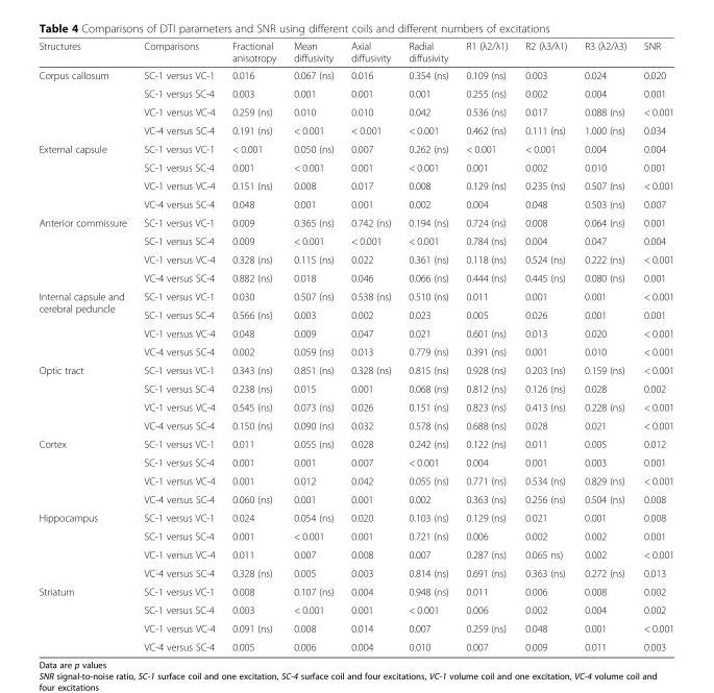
<table><thead><tr><td>Structures</td><td>Comparisons</td><td>Fractional anisotropy</td><td>Mean diffusivity</td><td>Axial diffusivity</td><td>Radial diffusivity</td><td>R1 (λ2/λ1)</td><td>R2 (λ3/λ1)</td><td>R3 (λ2/λ3)</td><td>SNR</td></tr></thead><tbody><tr><td rowspan="4">Corpus callosum</td><td>SC-1 versus VC-1</td><td>0.016</td><td>0.067 (ns)</td><td>0.016</td><td>0.354 (ns)</td><td>0.109 (ns)</td><td>0.003</td><td>0.024</td><td>0.020</td></tr><tr><td>SC-1 versus SC-4</td><td>0.003</td><td>0.001</td><td>0.001</td><td>0.001</td><td>0.255 (ns)</td><td>0.002</td><td>0.004</td><td>0.001</td></tr><tr><td>VC-1 versus VC-4</td><td>0.259 (ns)</td><td>0.010</td><td>0.010</td><td>0.042</td><td>0.536 (ns)</td><td>0.017</td><td>0.088 (ns)</td><td>&lt; 0.001</td></tr><tr><td>VC-4 versus SC-4</td><td>0.191 (ns)</td><td>&lt; 0.001</td><td>&lt; 0.001</td><td>&lt; 0.001</td><td>0.462 (ns)</td><td>0.111 (ns)</td><td>1.000 (ns)</td><td>0.034</td></tr><tr><td rowspan="4">External capsule</td><td>SC-1 versus VC-1</td><td>&lt; 0.001</td><td>0.050 (ns)</td><td>0.007</td><td>0.262 (ns)</td><td>&lt; 0.001</td><td>&lt; 0.001</td><td>0.004</td><td>0.004</td></tr><tr><td>SC-1 versus SC-4</td><td>0.001</td><td>&lt; 0.001</td><td>0.001</td><td>&lt; 0.001</td><td>0.001</td><td>0.002</td><td>0.010</td><td>0.001</td></tr><tr><td>VC-1 versus VC-4</td><td>0.151 (ns)</td><td>0.008</td><td>0.017</td><td>0.008</td><td>0.129 (ns)</td><td>0.235 (ns)</td><td>0.507 (ns)</td><td>&lt; 0.001</td></tr><tr><td>VC-4 versus SC-4</td><td>0.048</td><td>0.001</td><td>0.001</td><td>0.002</td><td>0.004</td><td>0.048</td><td>0.503 (ns)</td><td>0.007</td></tr><tr><td rowspan="4">Anterior commissure</td><td>SC-1 versus VC-1</td><td>0.009</td><td>0.365 (ns)</td><td>0.742 (ns)</td><td>0.194 (ns)</td><td>0.724 (ns)</td><td>0.008</td><td>0.064 (ns)</td><td>0.001</td></tr><tr><td>SC-1 versus SC-4</td><td>0.009</td><td>&lt; 0.001</td><td>&lt; 0.001</td><td>&lt; 0.001</td><td>0.784 (ns)</td><td>0.004</td><td>0.047</td><td>0.004</td></tr><tr><td>VC-1 versus VC-4</td><td>0.328 (ns)</td><td>0.115 (ns)</td><td>0.022</td><td>0.361 (ns)</td><td>0.118 (ns)</td><td>0.524 (ns)</td><td>0.222 (ns)</td><td>&lt; 0.001</td></tr><tr><td>VC-4 versus SC-4</td><td>0.882 (ns)</td><td>0.018</td><td>0.046</td><td>0.066 (ns)</td><td>0.444 (ns)</td><td>0.445 (ns)</td><td>0.080 (ns)</td><td>0.001</td></tr><tr><td rowspan="4">Internal capsule and cerebral peduncle</td><td>SC-1 versus VC-1</td><td>0.030</td><td>0.507 (ns)</td><td>0.538 (ns)</td><td>0.510 (ns)</td><td>0.011</td><td>0.001</td><td>0.001</td><td>&lt; 0.001</td></tr><tr><td>SC-1 versus SC-4</td><td>0.566 (ns)</td><td>0.003</td><td>0.002</td><td>0.023</td><td>0.005</td><td>0.026</td><td>0.001</td><td>0.001</td></tr><tr><td>VC-1 versus VC-4</td><td>0.048</td><td>0.009</td><td>0.047</td><td>0.021</td><td>0.601 (ns)</td><td>0.013</td><td>0.020</td><td>&lt; 0.001</td></tr><tr><td>VC-4 versus SC-4</td><td>0.002</td><td>0.059 (ns)</td><td>0.013</td><td>0.779 (ns)</td><td>0.391 (ns)</td><td>0.001</td><td>0.010</td><td>&lt; 0.001</td></tr><tr><td rowspan="4">Optic tract</td><td>SC-1 versus VC-1</td><td>0.343 (ns)</td><td>0.851 (ns)</td><td>0.328 (ns)</td><td>0.815 (ns)</td><td>0.928 (ns)</td><td>0.203 (ns)</td><td>0.159 (ns)</td><td>&lt; 0.001</td></tr><tr><td>SC-1 versus SC-4</td><td>0.238 (ns)</td><td>0.015</td><td>0.001</td><td>0.068 (ns)</td><td>0.812 (ns)</td><td>0.126 (ns)</td><td>0.028</td><td>0.002</td></tr><tr><td>VC-1 versus VC-4</td><td>0.545 (ns)</td><td>0.073 (ns)</td><td>0.026</td><td>0.151 (ns)</td><td>0.823 (ns)</td><td>0.413 (ns)</td><td>0.228 (ns)</td><td>&lt; 0.001</td></tr><tr><td>VC-4 versus SC-4</td><td>0.150 (ns)</td><td>0.090 (ns)</td><td>0.032</td><td>0.578 (ns)</td><td>0.688 (ns)</td><td>0.028</td><td>0.021</td><td>&lt; 0.001</td></tr><tr><td rowspan="4">Cortex</td><td>SC-1 versus VC-1</td><td>0.011</td><td>0.055 (ns)</td><td>0.028</td><td>0.242 (ns)</td><td>0.122 (ns)</td><td>0.011</td><td>0.005</td><td>0.012</td></tr><tr><td>SC-1 versus SC-4</td><td>0.001</td><td>0.001</td><td>0.007</td><td>&lt; 0.001</td><td>0.004</td><td>0.001</td><td>0.003</td><td>0.001</td></tr><tr><td>VC-1 versus VC-4</td><td>0.001</td><td>0.012</td><td>0.042</td><td>0.055 (ns)</td><td>0.771 (ns)</td><td>0.534 (ns)</td><td>0.829 (ns)</td><td>&lt; 0.001</td></tr><tr><td>VC-4 versus SC-4</td><td>0.060 (ns)</td><td>0.001</td><td>0.001</td><td>0.002</td><td>0.363 (ns)</td><td>0.256 (ns)</td><td>0.504 (ns)</td><td>0.008</td></tr><tr><td rowspan="4">Hippocampus</td><td>SC-1 versus VC-1</td><td>0.024</td><td>0.054 (ns)</td><td>0.020</td><td>0.103 (ns)</td><td>0.129 (ns)</td><td>0.021</td><td>0.001</td><td>0.008</td></tr><tr><td>SC-1 versus SC-4</td><td>0.001</td><td>&lt; 0.001</td><td>0.001</td><td>0.721 (ns)</td><td>0.006</td><td>0.002</td><td>0.002</td><td>0.001</td></tr><tr><td>VC-1 versus VC-4</td><td>0.011</td><td>0.007</td><td>0.008</td><td>0.007</td><td>0.287 (ns)</td><td>0.065 ns)</td><td>0.002</td><td>&lt; 0.001</td></tr><tr><td>VC-4 versus SC-4</td><td>0.328 (ns)</td><td>0.005</td><td>0.003</td><td>0.814 (ns)</td><td>0.691 (ns)</td><td>0.363 (ns)</td><td>0.272 (ns)</td><td>0.013</td></tr><tr><td rowspan="4">Striatum</td><td>SC-1 versus VC-1</td><td>0.008</td><td>0.107 (ns)</td><td>0.004</td><td>0.948 (ns)</td><td>0.011</td><td>0.006</td><td>0.008</td><td>0.002</td></tr><tr><td>SC-1 versus SC-4</td><td>0.003</td><td>&lt; 0.001</td><td>0.001</td><td>&lt; 0.001</td><td>0.006</td><td>0.002</td><td>0.004</td><td>0.002</td></tr><tr><td>VC-1 versus VC-4</td><td>0.091 (ns)</td><td>0.008</td><td>0.014</td><td>0.007</td><td>0.259 (ns)</td><td>0.048</td><td>0.001</td><td>&lt; 0.001</td></tr><tr><td>VC-4 versus SC-4</td><td>0.005</td><td>0.006</td><td>0.004</td><td>0.010</td><td>0.007</td><td>0.009</td><td>0.011</td><td>0.003</td></tr></tbody></table>